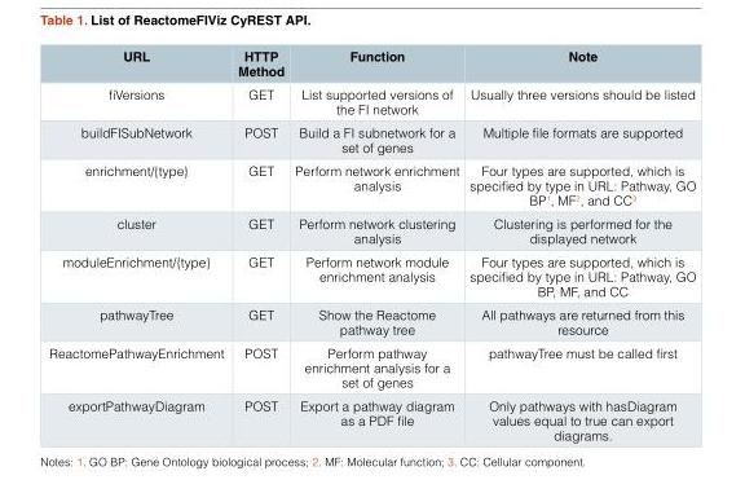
<table><thead><tr><td>URL</td><td>HTTP Method</td><td>Function</td><td>Note</td></tr></thead><tbody><tr><td>fiVersions</td><td>GET</td><td>List supported versions of the FI network</td><td>Usually three versions should be listed</td></tr><tr><td>buildFISubNetwork</td><td>POST</td><td>Build a FI subnetwork for a set of genes</td><td>Multiple file formats are supported</td></tr><tr><td>enrichment/{type}</td><td>GET</td><td>Perform network enrichment analysis</td><td>Four types are supported, which is specified by type in URL: Pathway, GO BP<sup>1</sup>, MF<sup>2</sup>, and CC<sup>3</sup></td></tr><tr><td>cluster</td><td>GET</td><td>Perform network clustering analysis</td><td>Clustering is performed for the displayed network</td></tr><tr><td>moduleEnrichment/{type}</td><td>GET</td><td>Perform network module enrichment analysis</td><td>Four types are supported, which is specified by type in URL: Pathway, GO BP, MF, and CC</td></tr><tr><td>pathwayTree</td><td>GET</td><td>Show the Reactome pathway tree</td><td>All pathways are returned from this resource</td></tr><tr><td>ReactomePathwayEnrichment</td><td>POST</td><td>Perform pathway enrichment analysis for a set of genes</td><td>pathwayTree must be called first</td></tr><tr><td>exportPathwayDiagram</td><td>POST</td><td>Export a pathway diagram as a PDF file</td><td>Only pathways with hasDiagram values equal to true can export diagrams.</td></tr></tbody></table>